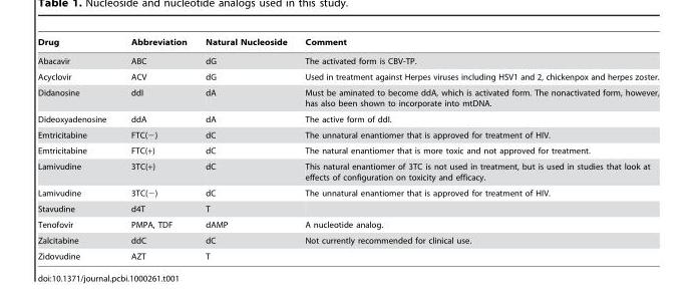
<table><thead><tr><td>Drug</td><td>Abbreviation</td><td>Natural Nucleoside</td><td>Comment</td></tr></thead><tbody><tr><td>Abacavir</td><td>ABC</td><td>dG</td><td>The activated form is CBV-TP.</td></tr><tr><td>Acyclovir</td><td>ACV</td><td>dG</td><td>Used in treatment against Herpes viruses including HSV1 and 2, chickenpox and herpes zoster.</td></tr><tr><td>Didanosine</td><td>ddI</td><td>dA</td><td>Must be aminated to become ddA, which is activated form. The nonactivated form, however, has also been shown to incorporate into mtDNA.</td></tr><tr><td>Dideoxyadenosine</td><td>ddA</td><td>dA</td><td>The active form of ddI.</td></tr><tr><td>Emtricitabine</td><td>FTC(−)</td><td>dC</td><td>The unnatural enantiomer that is approved for treatment of HIV.</td></tr><tr><td>Emtricitabine</td><td>FTC(+)</td><td>dC</td><td>The natural enantiomer that is more toxic and not approved for treatment.</td></tr><tr><td>Lamivudine</td><td>3TC(+)</td><td>dC</td><td>This natural enantiomer of 3TC is not used in treatment, but is used in studies that look at effects of configuration on toxicity and efficacy.</td></tr><tr><td>Lamivudine</td><td>3TC(−)</td><td>dC</td><td>The unnatural enantiomer that is approved for treatment of HIV.</td></tr><tr><td>Stavudine</td><td>d4T</td><td>T</td><td></td></tr><tr><td>Tenofovir</td><td>PMPA, TDF</td><td>dAMP</td><td>A nucleotide analog.</td></tr><tr><td>Zalcitabine</td><td>ddC</td><td>dC</td><td>Not currently recommended for clinical use.</td></tr><tr><td>Zidovudine</td><td>AZT</td><td>T</td><td></td></tr></tbody></table>